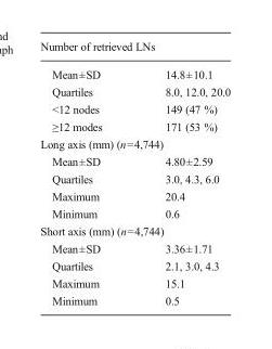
<table><thead><tr><td colspan="2">Number of retrieved LNs</td></tr><tr><td>Mean±SD</td><td>14.8±10.1</td></tr></thead><tbody><tr><td>Quartiles</td><td>8.0, 12.0, 20.0</td></tr><tr><td>&lt;12 nodes</td><td>149 (47 %)</td></tr><tr><td>≥12 modes</td><td>171 (53 %)</td></tr><tr><td colspan="2">Long axis (mm) (n=4,744)</td></tr><tr><td>Mean±SD</td><td>4.80±2.59</td></tr><tr><td>Quartiles</td><td>3.0, 4.3, 6.0</td></tr><tr><td>Maximum</td><td>20.4</td></tr><tr><td>Minimum</td><td>0.6</td></tr><tr><td colspan="2">Short axis (mm) (n=4,744)</td></tr><tr><td>Mean±SD</td><td>3.36±1.71</td></tr><tr><td>Quartiles</td><td>2.1, 3.0, 4.3</td></tr><tr><td>Maximum</td><td>15.1</td></tr><tr><td>Minimum</td><td>0.5</td></tr></tbody></table>